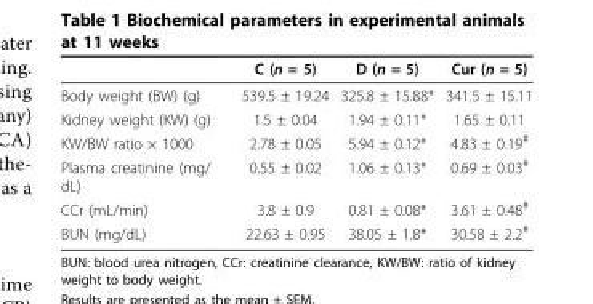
<table><thead><tr><td></td><td>C (n = 5)</td><td>D (n = 5)</td><td>Cur (n = 5)</td></tr></thead><tbody><tr><td>Body weight (BW) (g)</td><td>539.5 ± 19.24</td><td>325.8 ± 15.88*</td><td>341.5 ± 15.11</td></tr><tr><td>Kidney weight (KW) (g)</td><td>1.5 ± 0.04</td><td>1.94 ± 0.11*</td><td>1.65 ± 0.11</td></tr><tr><td>KW/BW ratio × 1000</td><td>2.78 ± 0.05</td><td>5.94 ± 0.12*</td><td>4.83 ± 0.19<sup>#</sup></td></tr><tr><td>Plasma creatinine (mg/ dL)</td><td>0.55 ± 0.02</td><td>1.06 ± 0.13*</td><td>0.69 ± 0.03<sup>#</sup></td></tr><tr><td>CCr (mL/min)</td><td>3.8 ± 0.9</td><td>0.81 ± 0.08*</td><td>3.61 ± 0.48<sup>#</sup></td></tr><tr><td>BUN (mg/dL)</td><td>22.63 ± 0.95</td><td>38.05 ± 1.8*</td><td>30.58 ± 2.2<sup>#</sup></td></tr></tbody></table>